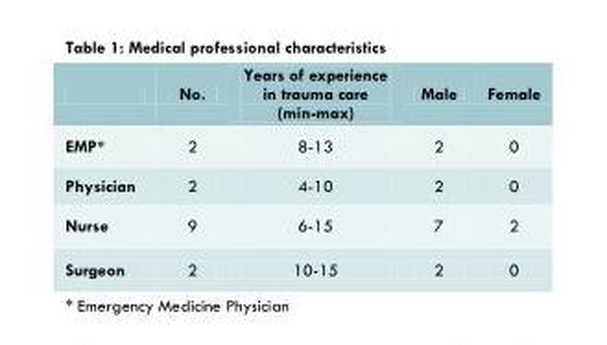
<table><thead><tr><td></td><td>No.</td><td>Years of experience in trauma care (min-max)</td><td>Male</td><td>Female</td></tr></thead><tbody><tr><td>EMP*</td><td>2</td><td>8-13</td><td>2</td><td>0</td></tr><tr><td>Physician</td><td>2</td><td>4-10</td><td>2</td><td>0</td></tr><tr><td>Nurse</td><td>9</td><td>6-15</td><td>7</td><td>2</td></tr><tr><td>Surgeon</td><td>2</td><td>10-15</td><td>2</td><td>0</td></tr></tbody></table>